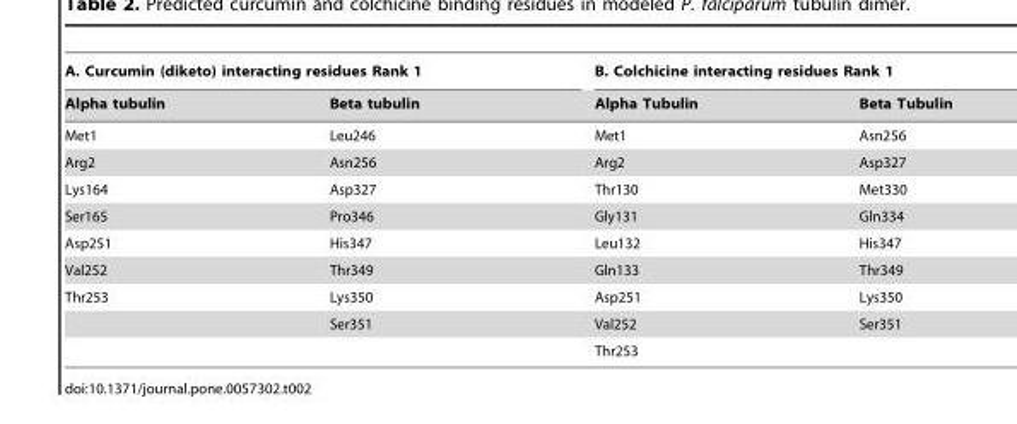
<table><thead><tr><td colspan="2">A. Curcumin (diketo) interacting residues Rank 1</td><td colspan="2">B. Colchicine interacting residues Rank 1</td></tr><tr><td>Alpha tubulin</td><td>Beta tubulin</td><td>Alpha Tubulin</td><td>Beta Tubulin</td></tr></thead><tbody><tr><td>Met1</td><td>Leu246</td><td>Met1</td><td>Asn256</td></tr><tr><td>Arg2</td><td>Asn256</td><td>Arg2</td><td>Asp327</td></tr><tr><td>Lys164</td><td>Asp327</td><td>Thr130</td><td>Met330</td></tr><tr><td>Ser165</td><td>Pro346</td><td>Gly131</td><td>Gln334</td></tr><tr><td>Asp251</td><td>His347</td><td>Leu132</td><td>His347</td></tr><tr><td>Val252</td><td>Thr349</td><td>Gln133</td><td>Thr349</td></tr><tr><td rowspan="3">Thr253</td><td>Lys350</td><td>Asp251</td><td>Lys350</td></tr><tr><td>Ser351</td><td>Val252</td><td>Ser351</td></tr><tr><td></td><td>Thr253</td><td></td></tr></tbody></table>